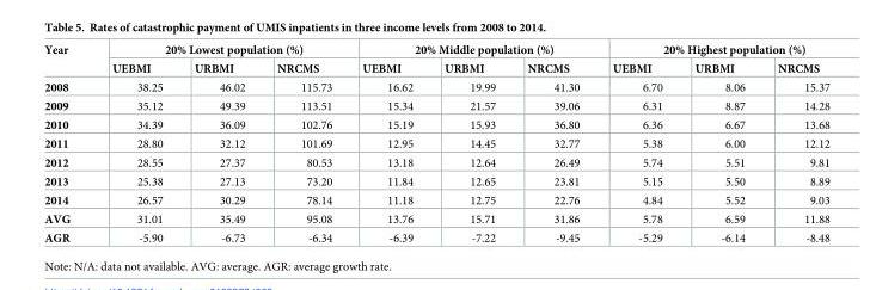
<table><thead><tr><td rowspan="2">Year</td><td colspan="3">20% Lowest population (%)</td><td colspan="3">20% Middle population (%)</td><td colspan="3">20% Highest population (%)</td></tr><tr><td>UEBMI</td><td>URBMI</td><td>NRCMS</td><td>UEBMI</td><td>URBMI</td><td>NRCMS</td><td>UEBMI</td><td>URBMI</td><td>NRCMS</td></tr></thead><tbody><tr><td>2008</td><td>38.25</td><td>46.02</td><td>115.73</td><td>16.62</td><td>19.99</td><td>41.30</td><td>6.70</td><td>8.06</td><td>15.37</td></tr><tr><td>2009</td><td>35.12</td><td>49.39</td><td>113.51</td><td>15.34</td><td>21.57</td><td>39.06</td><td>6.31</td><td>8.87</td><td>14.28</td></tr><tr><td>2010</td><td>34.39</td><td>36.09</td><td>102.76</td><td>15.19</td><td>15.93</td><td>36.80</td><td>6.36</td><td>6.67</td><td>13.68</td></tr><tr><td>2011</td><td>28.80</td><td>32.12</td><td>101.69</td><td>12.95</td><td>14.45</td><td>32.77</td><td>5.38</td><td>6.00</td><td>12.12</td></tr><tr><td>2012</td><td>28.55</td><td>27.37</td><td>80.53</td><td>13.18</td><td>12.64</td><td>26.49</td><td>5.74</td><td>5.51</td><td>9.81</td></tr><tr><td>2013</td><td>25.38</td><td>27.13</td><td>73.20</td><td>11.84</td><td>12.65</td><td>23.81</td><td>5.15</td><td>5.50</td><td>8.89</td></tr><tr><td>2014</td><td>26.57</td><td>30.29</td><td>78.14</td><td>11.18</td><td>12.75</td><td>22.76</td><td>4.84</td><td>5.52</td><td>9.03</td></tr><tr><td>AVG</td><td>31.01</td><td>35.49</td><td>95.08</td><td>13.76</td><td>15.71</td><td>31.86</td><td>5.78</td><td>6.59</td><td>11.88</td></tr><tr><td>AGR</td><td>-5.90</td><td>-6.73</td><td>-6.34</td><td>-6.39</td><td>-7.22</td><td>-9.45</td><td>-5.29</td><td>-6.14</td><td>-8.48</td></tr></tbody></table>